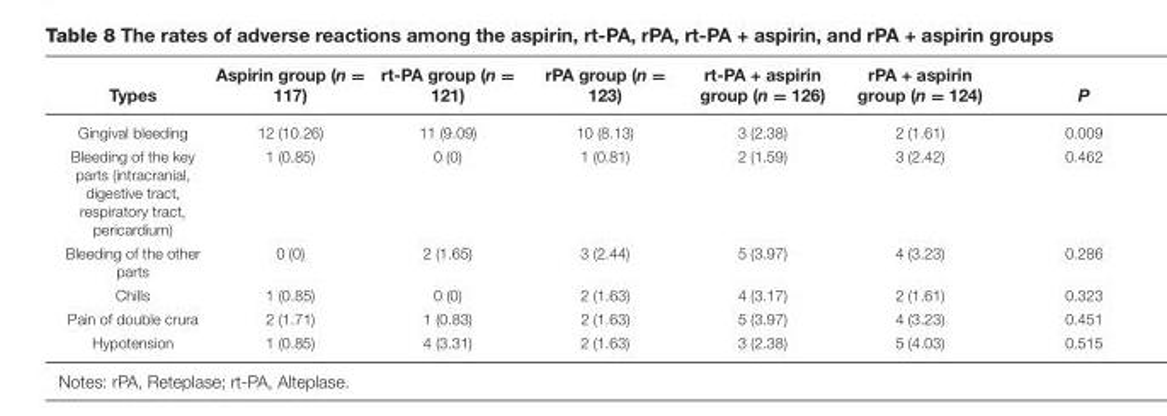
<table><thead><tr><td>Types</td><td>Aspirin group (n = 117)</td><td>rt-PA group (n = 121)</td><td>rPA group (n = 123)</td><td>rt-PA + aspirin group (n = 126)</td><td>rPA + aspirin group (n = 124)</td><td>P</td></tr></thead><tbody><tr><td>Gingival bleeding</td><td>12 (10.26)</td><td>11 (9.09)</td><td>10 (8.13)</td><td>3 (2.38)</td><td>2 (1.61)</td><td>0.009</td></tr><tr><td>Bleeding of the key parts (intracranial, digestive tract, respiratory tract, pericardium)</td><td>1 (0.85)</td><td>0 (0)</td><td>1 (0.81)</td><td>2 (1.59)</td><td>3 (2.42)</td><td>0.462</td></tr><tr><td>Bleeding of the other parts</td><td>0 (0)</td><td>2 (1.65)</td><td>3 (2.44)</td><td>5 (3.97)</td><td>4 (3.23)</td><td>0.286</td></tr><tr><td>Chills</td><td>1 (0.85)</td><td>0 (0)</td><td>2 (1.63)</td><td>4 (3.17)</td><td>2 (1.61)</td><td>0.323</td></tr><tr><td>Pain of double crura</td><td>2 (1.71)</td><td>1 (0.83)</td><td>2 (1.63)</td><td>5 (3.97)</td><td>4 (3.23)</td><td>0.451</td></tr><tr><td>Hypotension</td><td>1 (0.85)</td><td>4 (3.31)</td><td>2 (1.63)</td><td>3 (2.38)</td><td>5 (4.03)</td><td>0.515</td></tr></tbody></table>